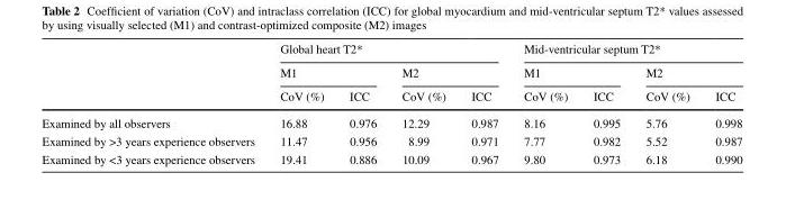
<table><thead><tr><td rowspan="3"></td><td colspan="4">Global heart T2*</td><td colspan="4">Mid-ventricular septum T2*</td></tr><tr><td colspan="2">M1</td><td colspan="2">M2</td><td colspan="2">M1</td><td colspan="2">M2</td></tr><tr><td>CoV (%)</td><td>ICC</td><td>CoV (%)</td><td>ICC</td><td>CoV (%)</td><td>ICC</td><td>CoV (%)</td><td>ICC</td></tr></thead><tbody><tr><td>Examined by all observers</td><td>16.88</td><td>0.976</td><td>12.29</td><td>0.987</td><td>8.16</td><td>0.995</td><td>5.76</td><td>0.998</td></tr><tr><td>Examined by &gt;3 years experience observers</td><td>11.47</td><td>0.956</td><td>8.99</td><td>0.971</td><td>7.77</td><td>0.982</td><td>5.52</td><td>0.987</td></tr><tr><td>Examined by &lt;3 years experience observers</td><td>19.41</td><td>0.886</td><td>10.09</td><td>0.967</td><td>9.80</td><td>0.973</td><td>6.18</td><td>0.990</td></tr></tbody></table>